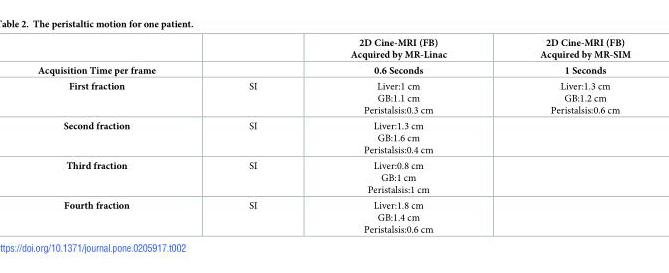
<table><thead><tr><td rowspan="2">Acquisition Time per frame</td><td rowspan="2"></td><td rowspan="2">2D Cine-MRI (FB) Acquired by MR-Linac 0.6 Seconds</td><td rowspan="2">2D Cine-MRI (FB) Acquired by MR-SIM 1 Seconds</td></tr><tr></tr></thead><tbody><tr><td>First fraction</td><td>SI</td><td>Liver:1 cm GB:1.1 cm Peristalsis:0.3 cm</td><td>Liver:1.3 cm GB:1.2 cm Peristalsis:0.6 cm</td></tr><tr><td>Second fraction</td><td>SI</td><td>Liver:1.3 cm GB:1.6 cm Peristalsis:0.4 cm</td><td></td></tr><tr><td>Third fraction</td><td>SI</td><td>Liver:0.8 cm GB:1 cm Peristalsis:1 cm</td><td></td></tr><tr><td>Fourth fraction</td><td>SI</td><td>Liver:1.8 cm GB:1.4 cm Peristalsis:0.6 cm</td><td></td></tr></tbody></table>